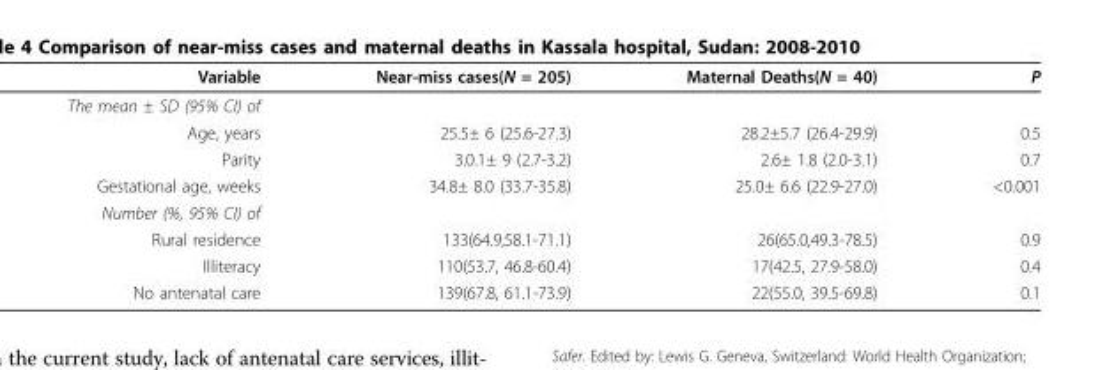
<table><thead><tr><td>Variable</td><td>Near-miss cases(N = 205)</td><td>Maternal Deaths(N = 40)</td><td>P</td></tr></thead><tbody><tr><td colspan="4">The mean ± SD (95% CI) of</td></tr><tr><td>Age, years</td><td>25.5± 6 (25.6-27.3)</td><td>28.2±5.7 (26.4-29.9)</td><td>0.5</td></tr><tr><td>Parity</td><td>3.0.1± 9 (2.7-3.2)</td><td>2.6± 1.8 (2.0-3.1)</td><td>0.7</td></tr><tr><td>Gestational age, weeks</td><td>34.8± 8.0 (33.7-35.8)</td><td>25.0± 6.6 (22.9-27.0)</td><td>&lt;0.001</td></tr><tr><td colspan="4">Number (%, 95% CI) of</td></tr><tr><td>Rural residence</td><td>133(64.9,58.1-71.1)</td><td>26(65.0,49.3-78.5)</td><td>0.9</td></tr><tr><td>Illiteracy</td><td>110(53.7, 46.8-60.4)</td><td>17(42.5, 27.9-58.0)</td><td>0.4</td></tr><tr><td>No antenatal care</td><td>139(67.8, 61.1-73.9)</td><td>22(55.0, 39.5-69.8)</td><td>0.1</td></tr></tbody></table>